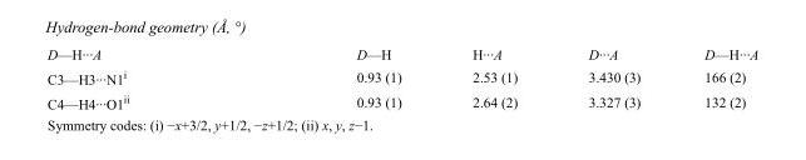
<table><tbody><tr><td>D—H···A</td><td>D—H</td><td>H···A</td><td>D···A</td><td>D—H···A</td></tr><tr><td>C3—H3···N1<sup>i</sup></td><td>0.93 (1)</td><td>2.53 (1)</td><td>3.430 (3)</td><td>166 (2)</td></tr><tr><td>C4—H4···O1<sup>ii</sup></td><td>0.93 (1)</td><td>2.64 (2)</td><td>3.327 (3)</td><td>132 (2)</td></tr></tbody></table>